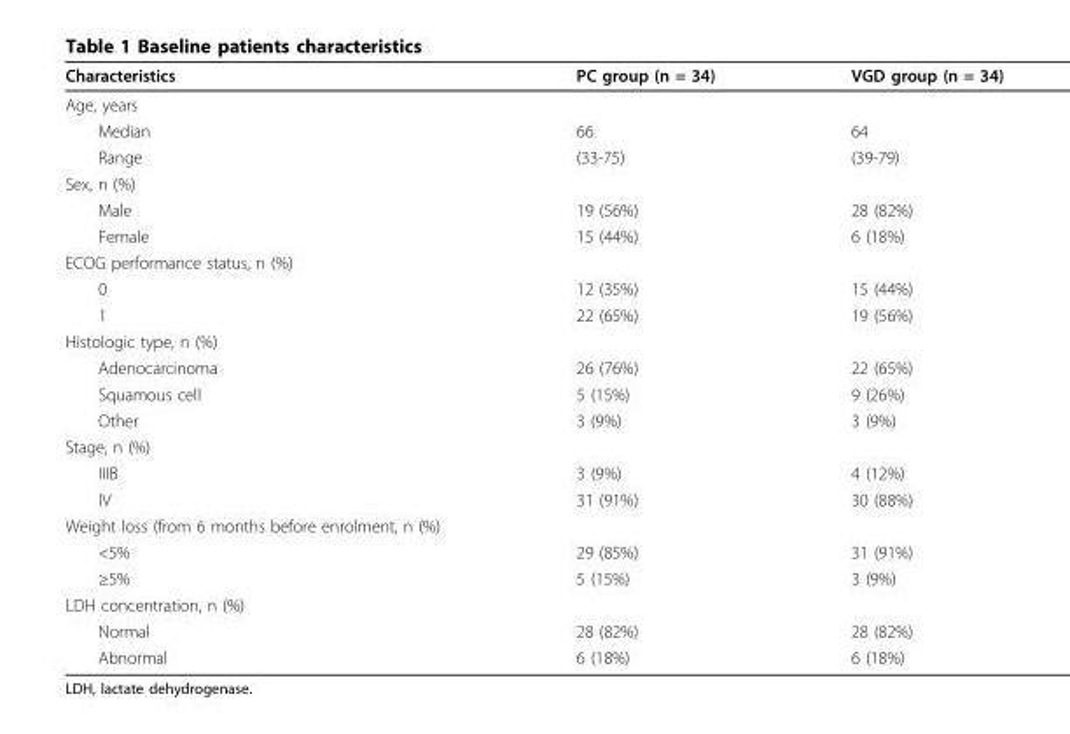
<table><thead><tr><td>Characteristics</td><td>PC group (n = 34)</td><td>VGD group (n = 34)</td></tr></thead><tbody><tr><td colspan="3">Age, years</td></tr><tr><td>Median</td><td>66</td><td>64</td></tr><tr><td>Range</td><td>(33-75)</td><td>(39-79)</td></tr><tr><td colspan="3">Sex, n (%)</td></tr><tr><td>Male</td><td>19 (56%)</td><td>28 (82%)</td></tr><tr><td>Female</td><td>15 (44%)</td><td>6 (18%)</td></tr><tr><td colspan="3">ECOG performance status, n (%)</td></tr><tr><td>0</td><td>12 (35%)</td><td>15 (44%)</td></tr><tr><td>1</td><td>22 (65%)</td><td>19 (56%)</td></tr><tr><td colspan="3">Histologic type, n (%)</td></tr><tr><td>Adenocarcinoma</td><td>26 (76%)</td><td>22 (65%)</td></tr><tr><td>Squamous cell</td><td>5 (15%)</td><td>9 (26%)</td></tr><tr><td>Other</td><td>3 (9%)</td><td>3 (9%)</td></tr><tr><td colspan="3">Stage, n (%)</td></tr><tr><td>IIIB</td><td>3 (9%)</td><td>4 (12%)</td></tr><tr><td>IV</td><td>31 (91%)</td><td>30 (88%)</td></tr><tr><td colspan="3">Weight loss (from 6 months before enrolment, n (%)</td></tr><tr><td>&lt;5%</td><td>29 (85%)</td><td>31 (91%)</td></tr><tr><td>≥5%</td><td>5 (15%)</td><td>3 (9%)</td></tr><tr><td colspan="3">LDH concentration, n (%)</td></tr><tr><td>Normal</td><td>28 (82%)</td><td>28 (82%)</td></tr><tr><td>Abnormal</td><td>6 (18%)</td><td>6 (18%)</td></tr></tbody></table>